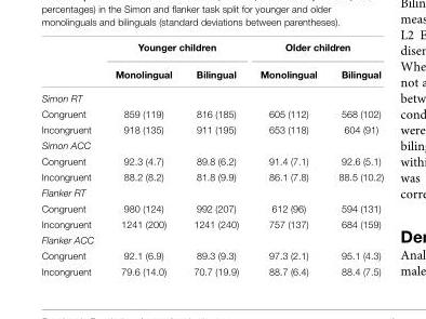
<table><thead><tr><td rowspan="2"></td><td colspan="2">Younger children</td><td colspan="2">Older children</td></tr><tr><td>Monolingual</td><td>Bilingual</td><td>Monolingual</td><td>Bilingual</td></tr></thead><tbody><tr><td colspan="5">Simon RT</td></tr><tr><td>Congruent</td><td>859 (119)</td><td>816 (185)</td><td>605 (112)</td><td>568 (102)</td></tr><tr><td>Incongruent</td><td>918 (135)</td><td>911 (195)</td><td>653 (118)</td><td>604 (91)</td></tr><tr><td colspan="5">Simon ACC</td></tr><tr><td>Congruent</td><td>92.3 (4.7)</td><td>89.8 (6.2)</td><td>91.4 (7.1)</td><td>92.6 (5.1)</td></tr><tr><td>Incongruent</td><td>88.2 (8.2)</td><td>81.8 (9.9)</td><td>86.1 (7.8)</td><td>88.5 (10.2)</td></tr><tr><td colspan="5">Flanker RT</td></tr><tr><td>Congruent</td><td>980 (124)</td><td>992 (207)</td><td>612 (96)</td><td>594 (131)</td></tr><tr><td>Incongruent</td><td>1241 (200)</td><td>1241 (240)</td><td>757 (137)</td><td>684 (159)</td></tr><tr><td colspan="5">Flanker ACC</td></tr><tr><td>Congruent</td><td>92.1 (6.9)</td><td>89.3 (9.3)</td><td>97.3 (2.1)</td><td>95.1 (4.3)</td></tr><tr><td>Incongruent</td><td>79.6 (14.0)</td><td>70.7 (19.9)</td><td>88.7 (6.4)</td><td>88.4 (7.5)</td></tr></tbody></table>